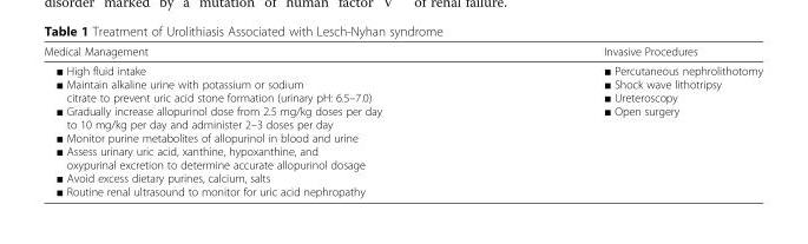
<table><thead><tr><td>Medical Management</td><td>Invasive Procedures</td></tr></thead><tbody><tr><td>■ High fluid intake ■ Maintain alkaline urine with potassium or sodium citrate to prevent uric acid stone formation (urinary pH: 6.5–7.0) ■ Gradually increase allopurinol dose from 2.5 mg/kg doses per day to 10 mg/kg per day and administer 2–3 doses per day ■ Monitor purine metabolites of allopurinol in blood and urine ■ Assess urinary uric acid, xanthine, hypoxanthine, and oxypurinal excretion to determine accurate allopurinol dosage ■ Avoid excess dietary purines, calcium, salts ■ Routine renal ultrasound to monitor for uric acid nephropathy</td><td>■ Percutaneous nephrolithotomy ■ Shock wave lithotripsy ■ Ureteroscopy ■ Open surgery</td></tr></tbody></table>